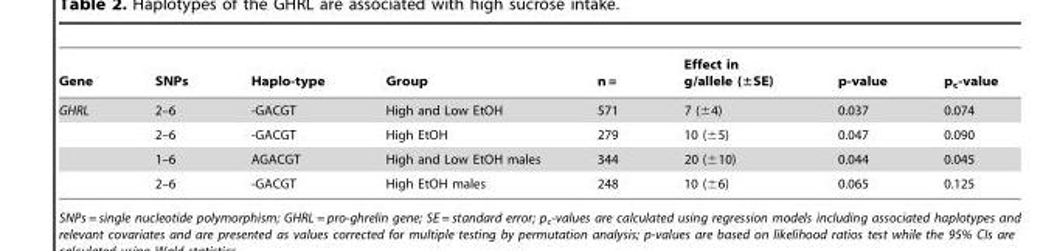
<table><thead><tr><td>Gene</td><td>SNPs</td><td>Haplo-type</td><td>Group</td><td>n =</td><td>Effect in g/allele (±SE)</td><td>p-value</td><td>p<sub>c</sub>-value</td></tr></thead><tbody><tr><td rowspan="4">GHRL</td><td>2–6</td><td>-GACGT</td><td>High and Low EtOH</td><td>571</td><td>7 (±4)</td><td>0.037</td><td>0.074</td></tr><tr><td>2–6</td><td>-GACGT</td><td>High EtOH</td><td>279</td><td>10 (±5)</td><td>0.047</td><td>0.090</td></tr><tr><td>1–6</td><td>AGACGT</td><td>High and Low EtOH males</td><td>344</td><td>20 (±10)</td><td>0.044</td><td>0.045</td></tr><tr><td>2–6</td><td>-GACGT</td><td>High EtOH males</td><td>248</td><td>10 (±6)</td><td>0.065</td><td>0.125</td></tr></tbody></table>